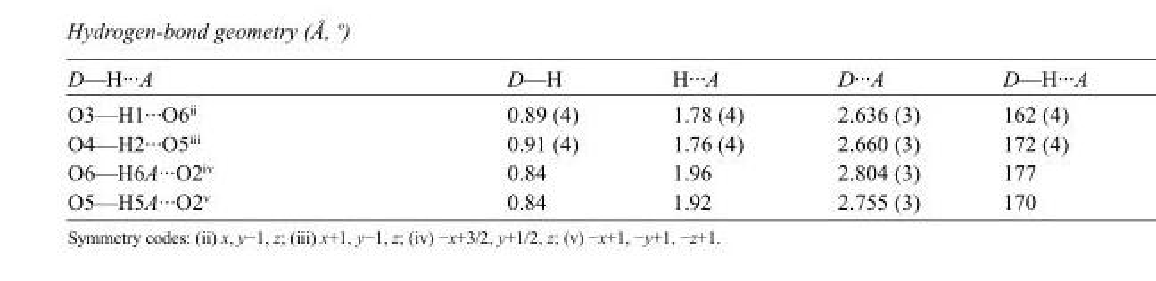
<table><tbody><tr><td>D—H···A</td><td>D—H</td><td>H···A</td><td>D···A</td><td>D—H···A</td></tr><tr><td>O3—H1···O6<sup>ii</sup></td><td>0.89 (4)</td><td>1.78 (4)</td><td>2.636 (3)</td><td>162 (4)</td></tr><tr><td>O4—H2···O5<sup>iii</sup></td><td>0.91 (4)</td><td>1.76 (4)</td><td>2.660 (3)</td><td>172 (4)</td></tr><tr><td>O6—H6A···O2<sup>iv</sup></td><td>0.84</td><td>1.96</td><td>2.804 (3)</td><td>177</td></tr><tr><td>O5—H5A···O2<sup>v</sup></td><td>0.84</td><td>1.92</td><td>2.755 (3)</td><td>170</td></tr></tbody></table>